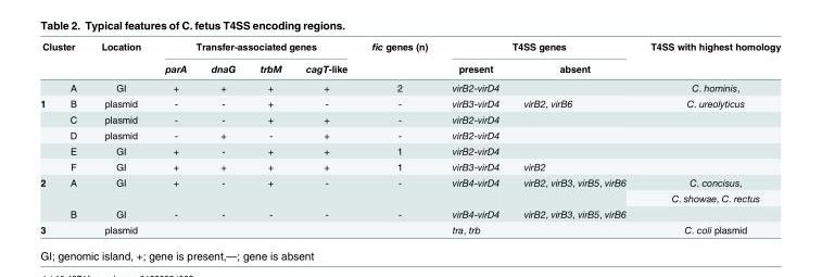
<table><thead><tr><td rowspan="2" colspan="2">Cluster</td><td rowspan="3">Location GI</td><td colspan="4">Transfer-associated genes</td><td rowspan="3">fic genes (n) 2</td><td colspan="2">T4SS genes</td><td rowspan="3">T4SS with highest homology C. hominis,</td></tr><tr><td rowspan="2">parA +</td><td rowspan="2">dnaG +</td><td rowspan="2">trbM +</td><td rowspan="2">cagT-like +</td><td rowspan="2">present virB2-virD4</td><td rowspan="2">absent</td></tr><tr><td></td><td>A</td></tr></thead><tbody><tr><td rowspan="5">1</td><td>B</td><td>plasmid</td><td>-</td><td>-</td><td>+</td><td>-</td><td>-</td><td>virB3-virD4</td><td>virB2, virB6</td><td>C. ureolyticus</td></tr><tr><td>C</td><td>plasmid</td><td>-</td><td>-</td><td>+</td><td>+</td><td>-</td><td>virB2-virD4</td><td></td><td></td></tr><tr><td>D</td><td>plasmid</td><td>-</td><td>+</td><td>-</td><td>+</td><td>-</td><td>virB2-virD4</td><td></td><td></td></tr><tr><td>E</td><td>GI</td><td>+</td><td>-</td><td>+</td><td>+</td><td>1</td><td>virB2-virD4</td><td></td><td></td></tr><tr><td>F</td><td>GI</td><td>+</td><td>+</td><td>+</td><td>+</td><td>1</td><td>virB3-virD4</td><td>virB2</td><td></td></tr><tr><td rowspan="3">2</td><td rowspan="2">A</td><td rowspan="2">GI</td><td rowspan="2">+</td><td rowspan="2">-</td><td rowspan="2">+</td><td rowspan="2">-</td><td rowspan="2">-</td><td rowspan="2">virB4-virD4</td><td rowspan="2">virB2, virB3, virB5, virB6</td><td>C. concisus,</td></tr><tr><td>C. showae, C. rectus</td></tr><tr><td>B</td><td>GI</td><td>-</td><td>-</td><td>-</td><td>-</td><td>-</td><td>virB4-virD4</td><td>virB2, virB3, virB5, virB6</td><td></td></tr><tr><td>3</td><td></td><td>plasmid</td><td></td><td></td><td></td><td></td><td></td><td>tra, trb</td><td></td><td>C. coli plasmid</td></tr></tbody></table>